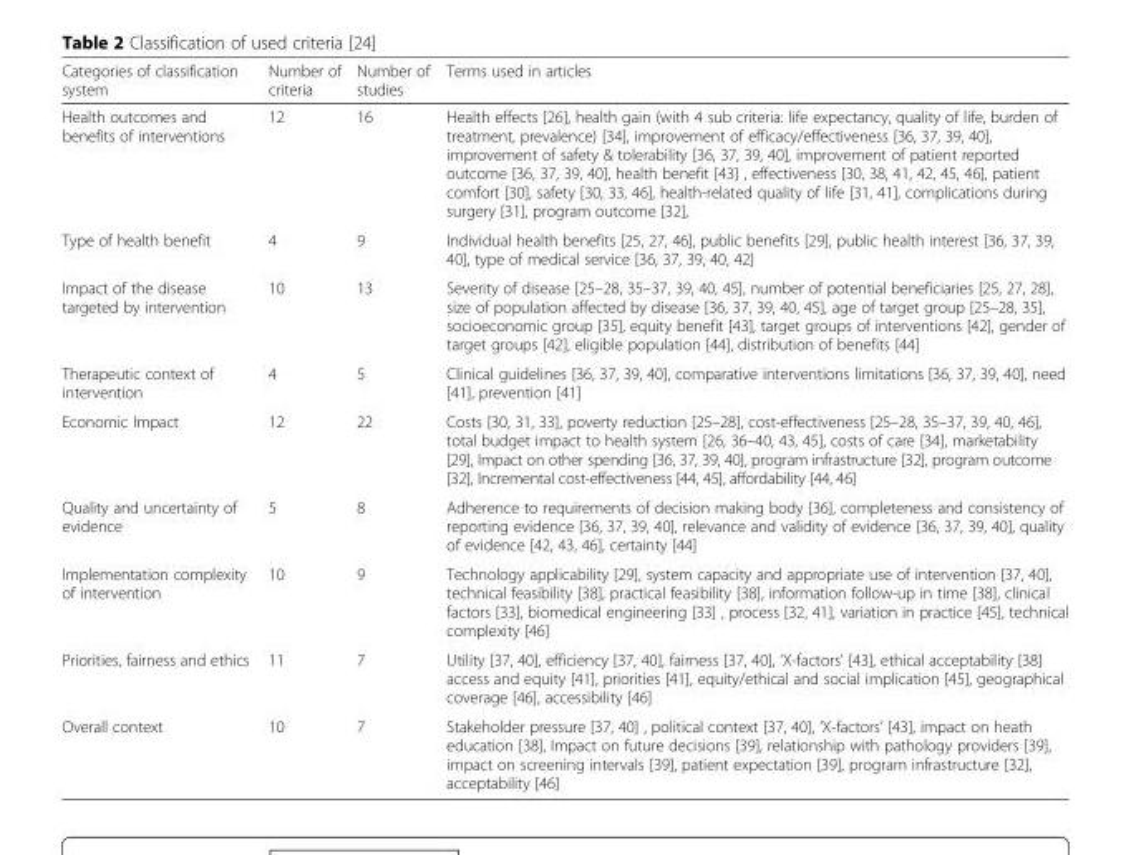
<table><thead><tr><td>Categories of classification system</td><td>Number of criteria</td><td>Number of studies</td><td>Terms used in articles</td></tr></thead><tbody><tr><td>Health outcomes and benefits of interventions</td><td>12</td><td>16</td><td>Health effects [26], health gain (with 4 sub criteria: life expectancy, quality of life, burden of treatment, prevalence) [34], improvement of efficacy/effectiveness [36, 37, 39, 40], improvement of safety &amp; tolerability [36, 37, 39, 40], improvement of patient reported outcome [36, 37, 39, 40], health benefit [43] , effectiveness [30, 38, 41, 42, 45, 46], patient comfort [30], safety [30, 33, 46], health-related quality of life [31, 41], complications during surgery [31], program outcome [32],</td></tr><tr><td>Type of health benefit</td><td>4</td><td>9</td><td>Individual health benefits [25, 27, 46], public benefits [29], public health interest [36, 37, 39, 40], type of medical service [36, 37, 39, 40, 42]</td></tr><tr><td>Impact of the disease targeted by intervention</td><td>10</td><td>13</td><td>Severity of disease [25–28, 35–37, 39, 40, 45], number of potential beneficiaries [25, 27, 28], size of population affected by disease [36, 37, 39, 40, 45], age of target group [25–28, 35], socioeconomic group [35], equity benefit [43], target groups of interventions [42], gender of target groups [42], eligible population [44], distribution of benefits [44]</td></tr><tr><td>Therapeutic context of intervention</td><td>4</td><td>5</td><td>Clinical guidelines [36, 37, 39, 40], comparative interventions limitations [36, 37, 39, 40], need [41], prevention [41]</td></tr><tr><td>Economic Impact</td><td>12</td><td>22</td><td>Costs [30, 31, 33], poverty reduction [25–28], cost-effectiveness [25–28, 35–37, 39, 40, 46], total budget impact to health system [26, 36–40, 43, 45], costs of care [34], marketability [29], Impact on other spending [36, 37, 39, 40], program infrastructure [32], program outcome [32], Incremental cost-effectiveness [44, 45], affordability [44, 46]</td></tr><tr><td>Quality and uncertainty of evidence</td><td>5</td><td>8</td><td>Adherence to requirements of decision making body [36], completeness and consistency of reporting evidence [36, 37, 39, 40], relevance and validity of evidence [36, 37, 39, 40], quality of evidence [42, 43, 46], certainty [44]</td></tr><tr><td>Implementation complexity of intervention</td><td>10</td><td>9</td><td>Technology applicability [29], system capacity and appropriate use of intervention [37, 40], technical feasibility [38], practical feasibility [38], information follow-up in time [38], clinical factors [33], biomedical engineering [33] , process [32, 41], variation in practice [45], technical complexity [46]</td></tr><tr><td>Priorities, fairness and ethics</td><td>11</td><td>7</td><td>Utility [37, 40], efficiency [37, 40], fairness [37, 40], ‘X-factors’ [43], ethical acceptability [38] access and equity [41], priorities [41], equity/ethical and social implication [45], geographical coverage [46], accessibility [46]</td></tr><tr><td>Overall context</td><td>10</td><td>7</td><td>Stakeholder pressure [37, 40] , political context [37, 40], ‘X-factors’ [43], impact on heath education [38], Impact on future decisions [39], relationship with pathology providers [39], impact on screening intervals [39], patient expectation [39], program infrastructure [32], acceptability [46]</td></tr></tbody></table>